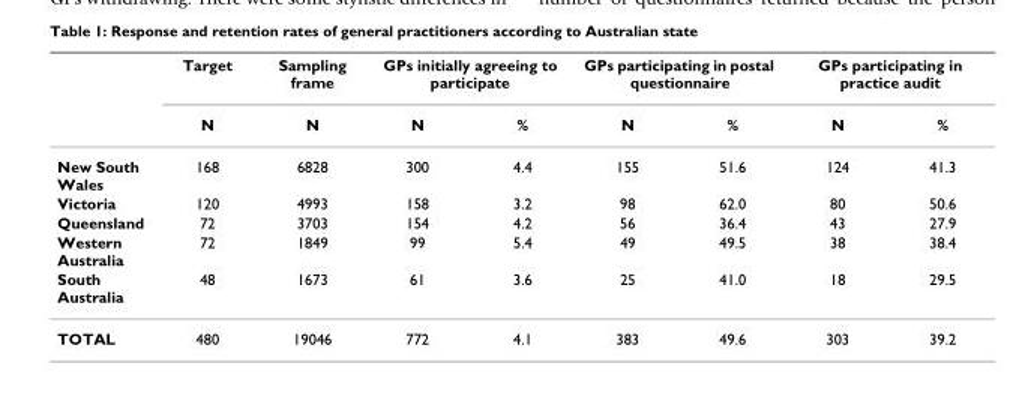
<table><thead><tr><td rowspan="2"></td><td rowspan="2">Target N</td><td rowspan="2">Sampling frame N</td><td colspan="2">GPs initially agreeing to participate</td><td colspan="2">GPs participating in postal questionnaire</td><td colspan="2">GPs participating in practice audit</td></tr><tr><td>N</td><td>%</td><td>N</td><td>%</td><td>N</td><td>%</td></tr></thead><tbody><tr><td>New South Wales</td><td>168</td><td>6828</td><td>300</td><td>4.4</td><td>155</td><td>51.6</td><td>124</td><td>41.3</td></tr><tr><td>Victoria</td><td>120</td><td>4993</td><td>158</td><td>3.2</td><td>98</td><td>62.0</td><td>80</td><td>50.6</td></tr><tr><td>Queensland</td><td>72</td><td>3703</td><td>154</td><td>4.2</td><td>56</td><td>36.4</td><td>43</td><td>27.9</td></tr><tr><td>Western Australia</td><td>72</td><td>1849</td><td>99</td><td>5.4</td><td>49</td><td>49.5</td><td>38</td><td>38.4</td></tr><tr><td>South Australia</td><td>48</td><td>1673</td><td>61</td><td>3.6</td><td>25</td><td>41.0</td><td>18</td><td>29.5</td></tr><tr><td>TOTAL</td><td>480</td><td>19046</td><td>772</td><td>4.1</td><td>383</td><td>49.6</td><td>303</td><td>39.2</td></tr></tbody></table>